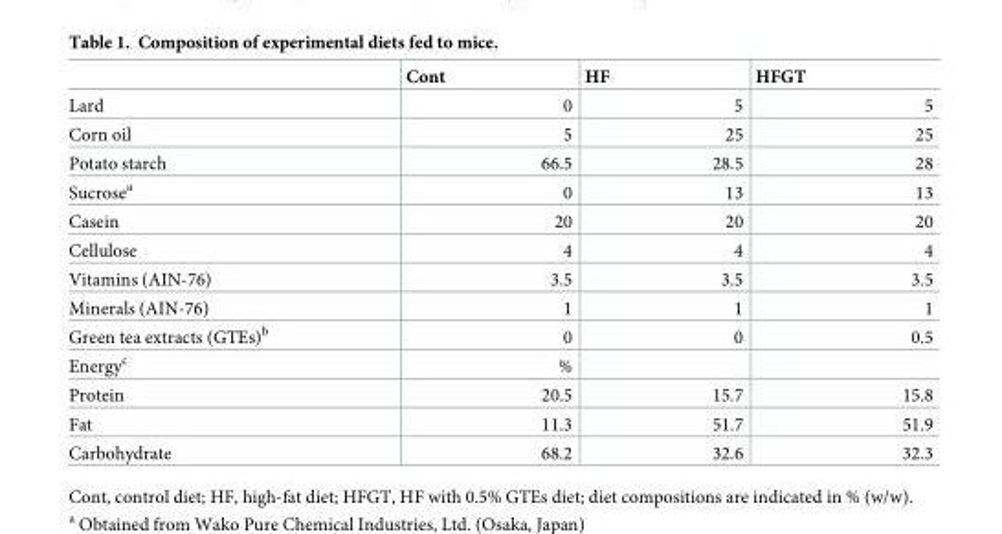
<table><thead><tr><td></td><td>Cont</td><td>HF</td><td>HFGT</td></tr></thead><tbody><tr><td>Lard</td><td>0</td><td>5</td><td>5</td></tr><tr><td>Corn oil</td><td>5</td><td>25</td><td>25</td></tr><tr><td>Potato starch</td><td>66.5</td><td>28.5</td><td>28</td></tr><tr><td>Sucrose<sup>a</sup></td><td>0</td><td>13</td><td>13</td></tr><tr><td>Casein</td><td>20</td><td>20</td><td>20</td></tr><tr><td>Cellulose</td><td>4</td><td>4</td><td>4</td></tr><tr><td>Vitamins (AIN-76)</td><td>3.5</td><td>3.5</td><td>3.5</td></tr><tr><td>Minerals (AIN-76)</td><td>1</td><td>1</td><td>1</td></tr><tr><td>Green tea extracts (GTEs)<sup>b</sup></td><td>0</td><td>0</td><td>0.5</td></tr><tr><td>Energy<sup>c</sup></td><td>%</td><td></td><td></td></tr><tr><td>Protein</td><td>20.5</td><td>15.7</td><td>15.8</td></tr><tr><td>Fat</td><td>11.3</td><td>51.7</td><td>51.9</td></tr><tr><td>Carbohydrate</td><td>68.2</td><td>32.6</td><td>32.3</td></tr></tbody></table>